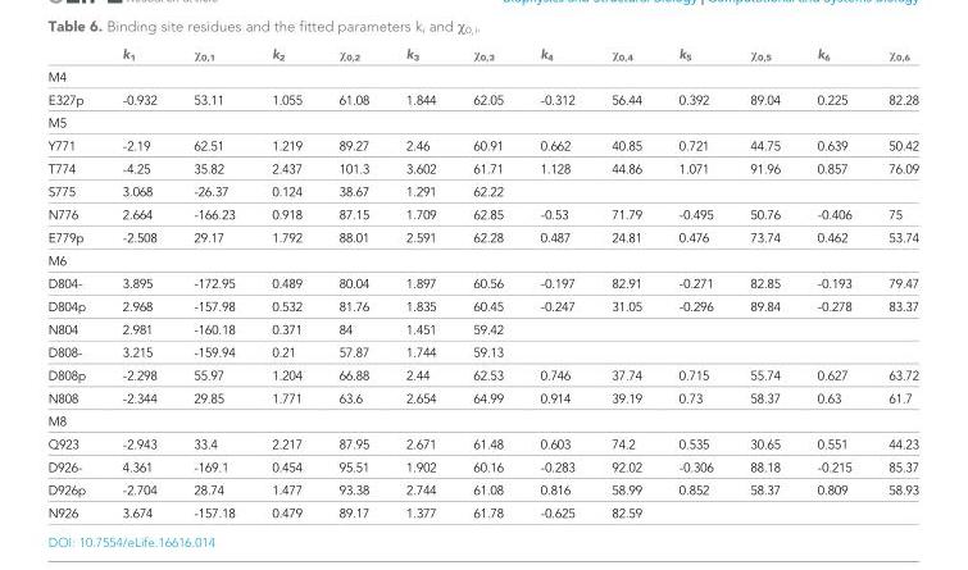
<table><thead><tr><td></td><td>k<sub>1</sub></td><td>χ<sub>0,1</sub></td><td>k<sub>2</sub></td><td>χ<sub>0,2</sub></td><td>k<sub>3</sub></td><td>χ<sub>0,3</sub></td><td>k<sub>4</sub></td><td>χ<sub>0,4</sub></td><td>k<sub>5</sub></td><td>χ<sub>0,5</sub></td><td>k<sub>6</sub></td><td>χ<sub>0,6</sub></td></tr></thead><tbody><tr><td colspan="13">M4</td></tr><tr><td>E327p</td><td>-0.932</td><td>53.11</td><td>1.055</td><td>61.08</td><td>1.844</td><td>62.05</td><td>-0.312</td><td>56.44</td><td>0.392</td><td>89.04</td><td>0.225</td><td>82.28</td></tr><tr><td colspan="13">M5</td></tr><tr><td>Y771</td><td>-2.19</td><td>62.51</td><td>1.219</td><td>89.27</td><td>2.46</td><td>60.91</td><td>0.662</td><td>40.85</td><td>0.721</td><td>44.75</td><td>0.639</td><td>50.42</td></tr><tr><td>T774</td><td>-4.25</td><td>35.82</td><td>2.437</td><td>101.3</td><td>3.602</td><td>61.71</td><td>1.128</td><td>44.86</td><td>1.071</td><td>91.96</td><td>0.857</td><td>76.09</td></tr><tr><td>S775</td><td>3.068</td><td>-26.37</td><td>0.124</td><td>38.67</td><td>1.291</td><td>62.22</td><td></td><td></td><td></td><td></td><td></td><td></td></tr><tr><td>N776</td><td>2.664</td><td>-166.23</td><td>0.918</td><td>87.15</td><td>1.709</td><td>62.85</td><td>-0.53</td><td>71.79</td><td>-0.495</td><td>50.76</td><td>-0.406</td><td>75</td></tr><tr><td>E779p</td><td>-2.508</td><td>29.17</td><td>1.792</td><td>88.01</td><td>2.591</td><td>62.28</td><td>0.487</td><td>24.81</td><td>0.476</td><td>73.74</td><td>0.462</td><td>53.74</td></tr><tr><td colspan="13">M6</td></tr><tr><td>D804-</td><td>3.895</td><td>-172.95</td><td>0.489</td><td>80.04</td><td>1.897</td><td>60.56</td><td>-0.197</td><td>82.91</td><td>-0.271</td><td>82.85</td><td>-0.193</td><td>79.47</td></tr><tr><td>D804p</td><td>2.968</td><td>-157.98</td><td>0.532</td><td>81.76</td><td>1.835</td><td>60.45</td><td>-0.247</td><td>31.05</td><td>-0.296</td><td>89.84</td><td>-0.278</td><td>83.37</td></tr><tr><td>N804</td><td>2.981</td><td>-160.18</td><td>0.371</td><td>84</td><td>1.451</td><td>59.42</td><td></td><td></td><td></td><td></td><td></td><td></td></tr><tr><td>D808-</td><td>3.215</td><td>-159.94</td><td>0.21</td><td>57.87</td><td>1.744</td><td>59.13</td><td></td><td></td><td></td><td></td><td></td><td></td></tr><tr><td>D808p</td><td>-2.298</td><td>55.97</td><td>1.204</td><td>66.88</td><td>2.44</td><td>62.53</td><td>0.746</td><td>37.74</td><td>0.715</td><td>55.74</td><td>0.627</td><td>63.72</td></tr><tr><td>N808</td><td>-2.344</td><td>29.85</td><td>1.771</td><td>63.6</td><td>2.654</td><td>64.99</td><td>0.914</td><td>39.19</td><td>0.73</td><td>58.37</td><td>0.63</td><td>61.7</td></tr><tr><td colspan="13">M8</td></tr><tr><td>Q923</td><td>-2.943</td><td>33.4</td><td>2.217</td><td>87.95</td><td>2.671</td><td>61.48</td><td>0.603</td><td>74.2</td><td>0.535</td><td>30.65</td><td>0.551</td><td>44.23</td></tr><tr><td>D926-</td><td>4.361</td><td>-169.1</td><td>0.454</td><td>95.51</td><td>1.902</td><td>60.16</td><td>-0.283</td><td>92.02</td><td>-0.306</td><td>88.18</td><td>-0.215</td><td>85.37</td></tr><tr><td>D926p</td><td>-2.704</td><td>28.74</td><td>1.477</td><td>93.38</td><td>2.744</td><td>61.08</td><td>0.816</td><td>58.99</td><td>0.852</td><td>58.37</td><td>0.809</td><td>58.93</td></tr><tr><td>N926</td><td>3.674</td><td>-157.18</td><td>0.479</td><td>89.17</td><td>1.377</td><td>61.78</td><td>-0.625</td><td>82.59</td><td></td><td></td><td></td><td></td></tr></tbody></table>